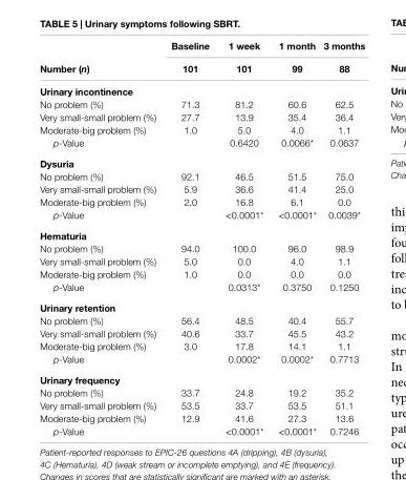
<table><thead><tr><td rowspan="2">number (n)</td><td rowspan="2">Baseline 101</td><td rowspan="2">1 week 101</td><td rowspan="2">1 month 99</td><td rowspan="2">3 months 88</td></tr><tr></tr></thead><tbody><tr><td colspan="5">Urinary incontinence</td></tr><tr><td>No problem (%)</td><td>71.3</td><td>81.2</td><td>60.6</td><td>62.5</td></tr><tr><td>Very small-small problem (%)</td><td>27.7</td><td>13.9</td><td>35.4</td><td>36.4</td></tr><tr><td>Moderate-big problem (%)</td><td>1.0</td><td>5.0</td><td>4.0</td><td>1.1</td></tr><tr><td>p-Value</td><td></td><td>0.6420</td><td>0.0066*</td><td>0.0637</td></tr><tr><td colspan="5">Dysuria</td></tr><tr><td>No problem (%)</td><td>92.1</td><td>46.5</td><td>51.5</td><td>75.0</td></tr><tr><td>Very small-small problem (%)</td><td>5.9</td><td>36.6</td><td>41.4</td><td>25.0</td></tr><tr><td>Moderate-big problem (%)</td><td>2.0</td><td>16.8</td><td>6.1</td><td>0.0</td></tr><tr><td>p-Value</td><td></td><td>&lt;0.0001*</td><td>&lt;0.0001*</td><td>0.0039*</td></tr><tr><td colspan="5">hematuria</td></tr><tr><td>No problem (%)</td><td>94.0</td><td>100.0</td><td>96.0</td><td>98.9</td></tr><tr><td>Very small-small problem (%)</td><td>5.0</td><td>0.0</td><td>4.0</td><td>1.1</td></tr><tr><td>Moderate-big problem (%)</td><td>1.0</td><td>0.0</td><td>0.0</td><td>0.0</td></tr><tr><td>p-Value</td><td></td><td>0.0313*</td><td>0.3750</td><td>0.1250</td></tr><tr><td colspan="5">Urinary retention</td></tr><tr><td>No problem (%)</td><td>56.4</td><td>48.5</td><td>40.4</td><td>55.7</td></tr><tr><td>Very small-small problem (%)</td><td>40.6</td><td>33.7</td><td>45.5</td><td>43.2</td></tr><tr><td>Moderate-big problem (%)</td><td>3.0</td><td>17.8</td><td>14.1</td><td>1.1</td></tr><tr><td>p-Value</td><td></td><td>0.0002*</td><td>0.0002*</td><td>0.7713</td></tr><tr><td colspan="5">Urinary frequency</td></tr><tr><td>No problem (%)</td><td>33.7</td><td>24.8</td><td>19.2</td><td>35.2</td></tr><tr><td>Very small-small problem (%)</td><td>53.5</td><td>33.7</td><td>53.5</td><td>51.1</td></tr><tr><td>Moderate-big problem (%)</td><td>12.9</td><td>41.6</td><td>27.3</td><td>13.6</td></tr><tr><td>p-Value</td><td></td><td>&lt;0.0001*</td><td>&lt;0.0001*</td><td>0.7246</td></tr></tbody></table>